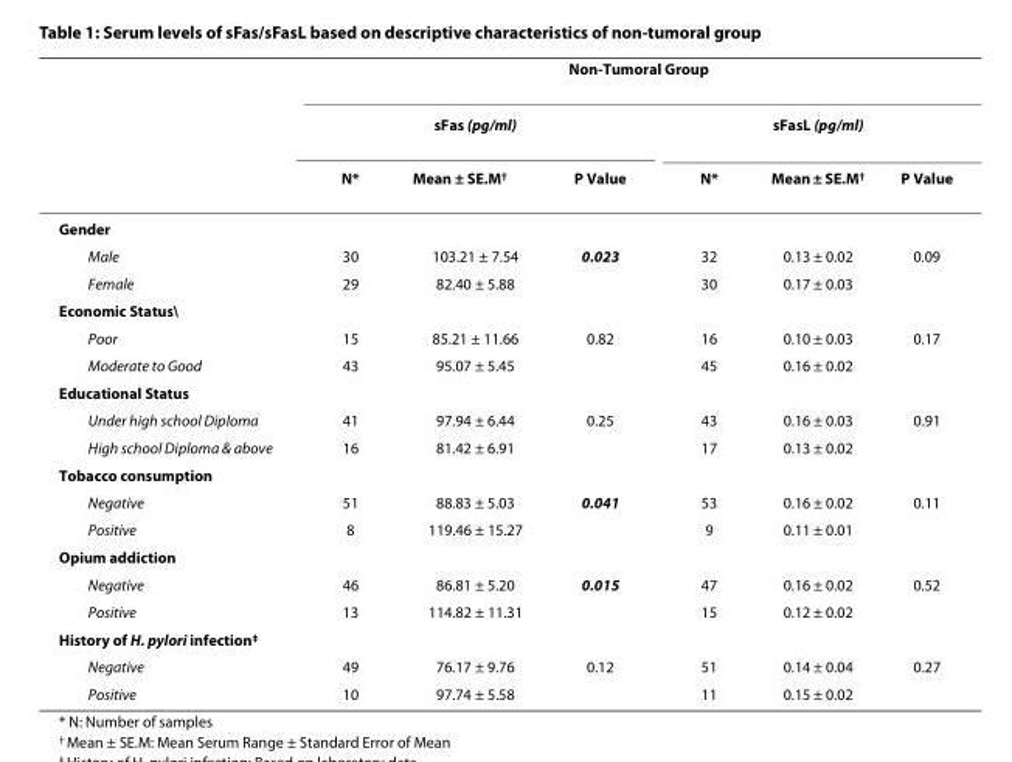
<table><thead><tr><td rowspan="3"></td><td colspan="6">Non-Tumoral Group</td></tr><tr><td colspan="3">sFas (pg/ml)</td><td colspan="3">sFasL (pg/ml)</td></tr><tr><td>N*</td><td>Mean ± SE.M<sup>†</sup></td><td>P Value</td><td>N*</td><td>Mean ± SE.M<sup>†</sup></td><td>P Value</td></tr></thead><tbody><tr><td colspan="7">Gender</td></tr><tr><td>Male</td><td>30</td><td>103.21 ± 7.54</td><td>0.023</td><td>32</td><td>0.13 ± 0.02</td><td>0.09</td></tr><tr><td>Female</td><td>29</td><td>82.40 ± 5.88</td><td></td><td>30</td><td>0.17 ± 0.03</td><td></td></tr><tr><td colspan="7">Economic Status\</td></tr><tr><td>Poor</td><td>15</td><td>85.21 ± 11.66</td><td>0.82</td><td>16</td><td>0.10 ± 0.03</td><td>0.17</td></tr><tr><td>Moderate to Good</td><td>43</td><td>95.07 ± 5.45</td><td></td><td>45</td><td>0.16 ± 0.02</td><td></td></tr><tr><td colspan="7">Educational Status</td></tr><tr><td>Under high school Diploma</td><td>41</td><td>97.94 ± 6.44</td><td>0.25</td><td>43</td><td>0.16 ± 0.03</td><td>0.91</td></tr><tr><td>High school Diploma &amp; above</td><td>16</td><td>81.42 ± 6.91</td><td></td><td>17</td><td>0.13 ± 0.02</td><td></td></tr><tr><td colspan="7">Tobacco consumption</td></tr><tr><td>Negative</td><td>51</td><td>88.83 ± 5.03</td><td>0.041</td><td>53</td><td>0.16 ± 0.02</td><td>0.11</td></tr><tr><td>Positive</td><td>8</td><td>119.46 ± 15.27</td><td></td><td>9</td><td>0.11 ± 0.01</td><td></td></tr><tr><td colspan="7">Opium addiction</td></tr><tr><td>Negative</td><td>46</td><td>86.81 ± 5.20</td><td>0.015</td><td>47</td><td>0.16 ± 0.02</td><td>0.52</td></tr><tr><td>Positive</td><td>13</td><td>114.82 ± 11.31</td><td></td><td>15</td><td>0.12 ± 0.02</td><td></td></tr><tr><td colspan="7">History of H. pylori infection<sup>‡</sup></td></tr><tr><td>Negative</td><td>49</td><td>76.17 ± 9.76</td><td>0.12</td><td>51</td><td>0.14 ± 0.04</td><td>0.27</td></tr><tr><td>Positive</td><td>10</td><td>97.74 ± 5.58</td><td></td><td>11</td><td>0.15 ± 0.02</td><td></td></tr></tbody></table>